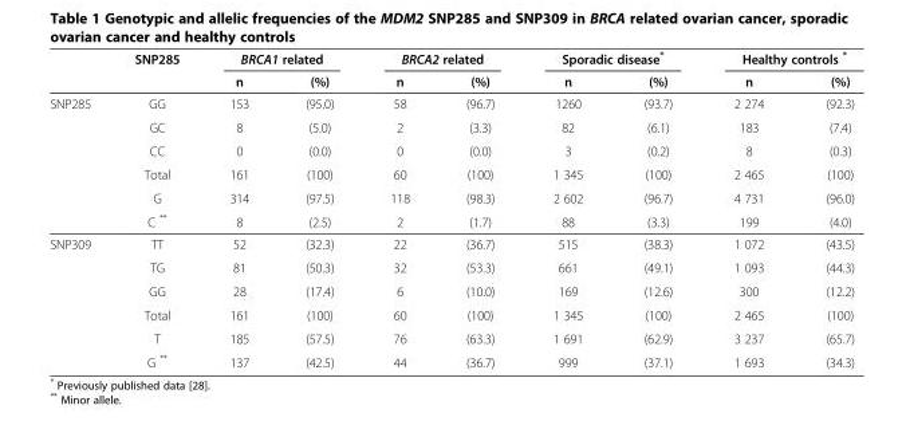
<table><thead><tr><td rowspan="2"></td><td rowspan="2">SNP285</td><td colspan="2">BRCA1 related</td><td colspan="2">BRCA2 related</td><td colspan="2">Sporadic disease*</td><td colspan="2">Healthy controls *</td></tr><tr><td>n</td><td>(%)</td><td>n</td><td>(%)</td><td>n</td><td>(%)</td><td>n</td><td>(%)</td></tr></thead><tbody><tr><td rowspan="6">SNP285</td><td>GG</td><td>153</td><td>(95.0)</td><td>58</td><td>(96.7)</td><td>1260</td><td>(93.7)</td><td>2 274</td><td>(92.3)</td></tr><tr><td>GC</td><td>8</td><td>(5.0)</td><td>2</td><td>(3.3)</td><td>82</td><td>(6.1)</td><td>183</td><td>(7.4)</td></tr><tr><td>CC</td><td>0</td><td>(0.0)</td><td>0</td><td>(0.0)</td><td>3</td><td>(0.2)</td><td>8</td><td>(0.3)</td></tr><tr><td>Total</td><td>161</td><td>(100)</td><td>60</td><td>(100)</td><td>1 345</td><td>(100)</td><td>2 465</td><td>(100)</td></tr><tr><td>G</td><td>314</td><td>(97.5)</td><td>118</td><td>(98.3)</td><td>2 602</td><td>(96.7)</td><td>4 731</td><td>(96.0)</td></tr><tr><td>C **</td><td>8</td><td>(2.5)</td><td>2</td><td>(1.7)</td><td>88</td><td>(3.3)</td><td>199</td><td>(4.0)</td></tr><tr><td rowspan="6">SNP309</td><td>TT</td><td>52</td><td>(32.3)</td><td>22</td><td>(36.7)</td><td>515</td><td>(38.3)</td><td>1 072</td><td>(43.5)</td></tr><tr><td>TG</td><td>81</td><td>(50.3)</td><td>32</td><td>(53.3)</td><td>661</td><td>(49.1)</td><td>1 093</td><td>(44.3)</td></tr><tr><td>GG</td><td>28</td><td>(17.4)</td><td>6</td><td>(10.0)</td><td>169</td><td>(12.6)</td><td>300</td><td>(12.2)</td></tr><tr><td>Total</td><td>161</td><td>(100)</td><td>60</td><td>(100)</td><td>1 345</td><td>(100)</td><td>2 465</td><td>(100)</td></tr><tr><td>T</td><td>185</td><td>(57.5)</td><td>76</td><td>(63.3)</td><td>1 691</td><td>(62.9)</td><td>3 237</td><td>(65.7)</td></tr><tr><td>G **</td><td>137</td><td>(42.5)</td><td>44</td><td>(36.7)</td><td>999</td><td>(37.1)</td><td>1 693</td><td>(34.3)</td></tr></tbody></table>